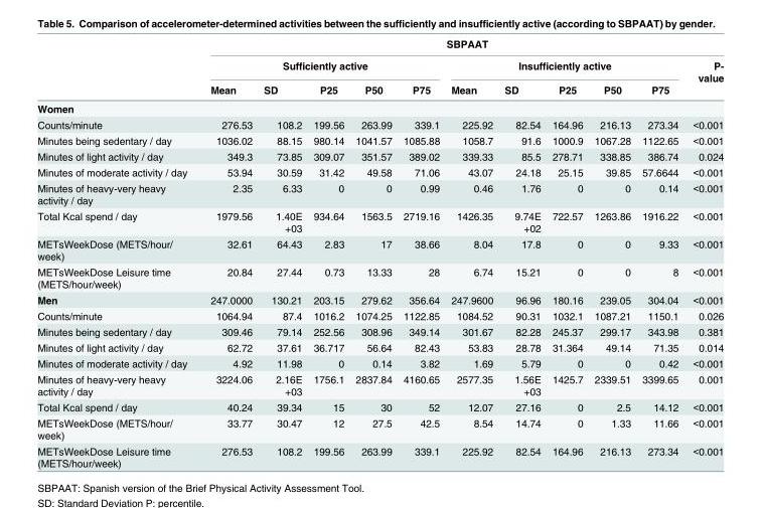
<table><thead><tr><td rowspan="3"></td><td colspan="11">SBPAAT</td></tr><tr><td colspan="5">Sufficiently active</td><td colspan="5">Insufficiently active</td><td rowspan="2">P- value</td></tr><tr><td>Mean</td><td>SD</td><td>P25</td><td>P50</td><td>P75</td><td>Mean</td><td>SD</td><td>P25</td><td>P50</td><td>P75</td></tr></thead><tbody><tr><td colspan="12">Women</td></tr><tr><td>Counts/minute</td><td>276.53</td><td>108.2</td><td>199.56</td><td>263.99</td><td>339.1</td><td>225.92</td><td>82.54</td><td>164.96</td><td>216.13</td><td>273.34</td><td>&lt;0.001</td></tr><tr><td>Minutes being sedentary / day</td><td>1036.02</td><td>88.15</td><td>980.14</td><td>1041.57</td><td>1085.88</td><td>1058.7</td><td>91.6</td><td>1000.9</td><td>1067.28</td><td>1122.65</td><td>&lt;0.001</td></tr><tr><td>Minutes of light activity / day</td><td>349.3</td><td>73.85</td><td>309.07</td><td>351.57</td><td>389.02</td><td>339.33</td><td>85.5</td><td>278.71</td><td>338.85</td><td>386.74</td><td>0.024</td></tr><tr><td>Minutes of moderate activity / day</td><td>53.94</td><td>30.59</td><td>31.42</td><td>49.58</td><td>71.06</td><td>43.07</td><td>24.18</td><td>25.15</td><td>39.85</td><td>57.6644</td><td>&lt;0.001</td></tr><tr><td>Minutes of heavy-very heavy activity / day</td><td>2.35</td><td>6.33</td><td>0</td><td>0</td><td>0.99</td><td>0.46</td><td>1.76</td><td>0</td><td>0</td><td>0.14</td><td>&lt;0.001</td></tr><tr><td>Total Kcal spend / day</td><td>1979.56</td><td>1.40E +03</td><td>934.64</td><td>1563.5</td><td>2719.16</td><td>1426.35</td><td>9.74E +02</td><td>722.57</td><td>1263.86</td><td>1916.22</td><td>&lt;0.001</td></tr><tr><td>METsWeekDose (METS/hour/ week)</td><td>32.61</td><td>64.43</td><td>2.83</td><td>17</td><td>38.66</td><td>8.04</td><td>17.8</td><td>0</td><td>0</td><td>9.33</td><td>&lt;0.001</td></tr><tr><td>METsWeekDose Leisure time (METS/hour/week)</td><td>20.84</td><td>27.44</td><td>0.73</td><td>13.33</td><td>28</td><td>6.74</td><td>15.21</td><td>0</td><td>0</td><td>8</td><td>&lt;0.001</td></tr><tr><td>Men</td><td>247.0000</td><td>130.21</td><td>203.15</td><td>279.62</td><td>356.64</td><td>247.9600</td><td>96.96</td><td>180.16</td><td>239.05</td><td>304.04</td><td>&lt;0.001</td></tr><tr><td>Counts/minute</td><td>1064.94</td><td>87.4</td><td>1016.2</td><td>1074.25</td><td>1122.85</td><td>1084.52</td><td>90.31</td><td>1032.1</td><td>1087.21</td><td>1150.1</td><td>0.026</td></tr><tr><td>Minutes being sedentary / day</td><td>309.46</td><td>79.14</td><td>252.56</td><td>308.96</td><td>349.14</td><td>301.67</td><td>82.28</td><td>245.37</td><td>299.17</td><td>343.98</td><td>0.381</td></tr><tr><td>Minutes of light activity / day</td><td>62.72</td><td>37.61</td><td>36.717</td><td>56.64</td><td>82.43</td><td>53.83</td><td>28.78</td><td>31.364</td><td>49.14</td><td>71.35</td><td>0.014</td></tr><tr><td>Minutes of moderate activity / day</td><td>4.92</td><td>11.98</td><td>0</td><td>0.14</td><td>3.82</td><td>1.69</td><td>5.79</td><td>0</td><td>0</td><td>0.42</td><td>&lt;0.001</td></tr><tr><td>Minutes of heavy-very heavy activity / day</td><td>3224.06</td><td>2.16E +03</td><td>1756.1</td><td>2837.84</td><td>4160.65</td><td>2577.35</td><td>1.56E +03</td><td>1425.7</td><td>2339.51</td><td>3399.65</td><td>0.001</td></tr><tr><td>Total Kcal spend / day</td><td>40.24</td><td>39.34</td><td>15</td><td>30</td><td>52</td><td>12.07</td><td>27.16</td><td>0</td><td>2.5</td><td>14.12</td><td>&lt;0.001</td></tr><tr><td>METsWeekDose (METS/hour/ week)</td><td>33.77</td><td>30.47</td><td>12</td><td>27.5</td><td>42.5</td><td>8.54</td><td>14.74</td><td>0</td><td>1.33</td><td>11.66</td><td>&lt;0.001</td></tr><tr><td>METsWeekDose Leisure time (METS/hour/week)</td><td>276.53</td><td>108.2</td><td>199.56</td><td>263.99</td><td>339.1</td><td>225.92</td><td>82.54</td><td>164.96</td><td>216.13</td><td>273.34</td><td>&lt;0.001</td></tr></tbody></table>